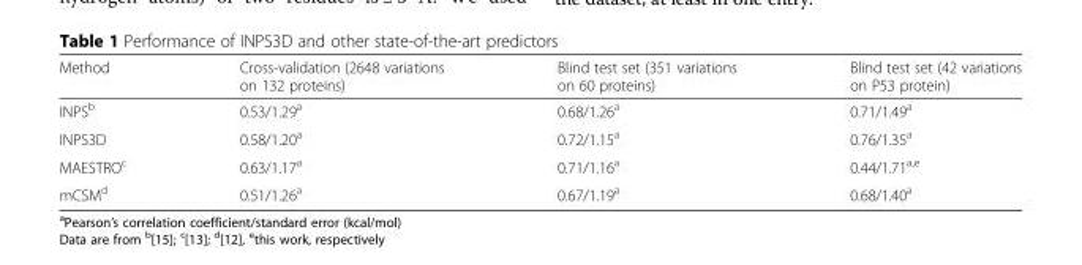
<table><thead><tr><td>Method</td><td>Cross-validation (2648 variations on 132 proteins)</td><td>Blind test set (351 variations on 60 proteins)</td><td>Blind test set (42 variations on P53 protein)</td></tr></thead><tbody><tr><td>INPS<sup>b</sup></td><td>0.53/1.29<sup>a</sup></td><td>0.68/1.26<sup>a</sup></td><td>0.71/1.49<sup>a</sup></td></tr><tr><td>INPS3D</td><td>0.58/1.20<sup>a</sup></td><td>0.72/1.15<sup>a</sup></td><td>0.76/1.35<sup>a</sup></td></tr><tr><td>MAESTRO<sup>c</sup></td><td>0.63/1.17<sup>a</sup></td><td>0.71/1.16<sup>a</sup></td><td>0.44/1.71<sup>a,e</sup></td></tr><tr><td>mCSM<sup>d</sup></td><td>0.51/1.26<sup>a</sup></td><td>0.67/1.19<sup>a</sup></td><td>0.68/1.40<sup>a</sup></td></tr></tbody></table>